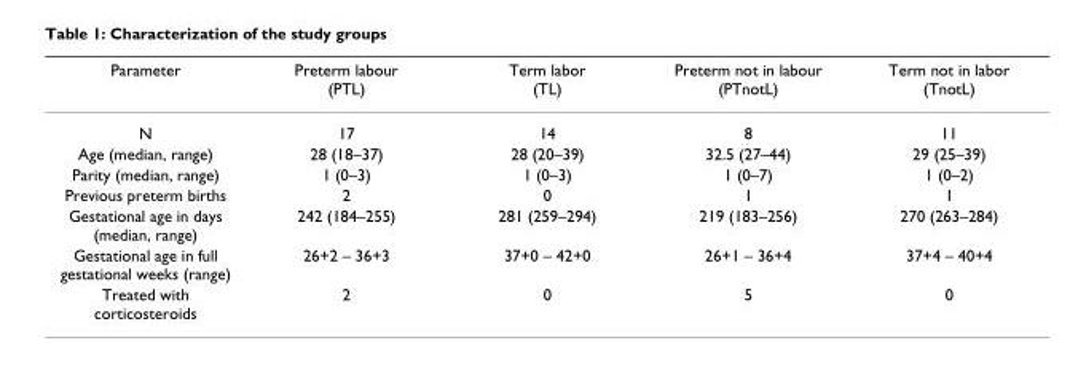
<table><thead><tr><td>Parameter</td><td>Preterm labour (PTL)</td><td>Term labor (TL)</td><td>Preterm not in labour (PTnotL)</td><td>Term not in labor (TnotL)</td></tr></thead><tbody><tr><td>N</td><td>17</td><td>14</td><td>8</td><td>11</td></tr><tr><td>Age (median, range)</td><td>28 (18–37)</td><td>28 (20–39)</td><td>32.5 (27–44)</td><td>29 (25–39)</td></tr><tr><td>Parity (median, range)</td><td>1 (0–3)</td><td>1 (0–3)</td><td>1 (0–7)</td><td>1 (0–2)</td></tr><tr><td>Previous preterm births</td><td>2</td><td>0</td><td>1</td><td>1</td></tr><tr><td>Gestational age in days (median, range)</td><td>242 (184–255)</td><td>281 (259–294)</td><td>219 (183–256)</td><td>270 (263–284)</td></tr><tr><td>Gestational age in full gestational weeks (range)</td><td>26+2 – 36+3</td><td>37+0 – 42+0</td><td>26+1 – 36+4</td><td>37+4 – 40+4</td></tr><tr><td>Treated with corticosteroids</td><td>2</td><td>0</td><td>5</td><td>0</td></tr></tbody></table>